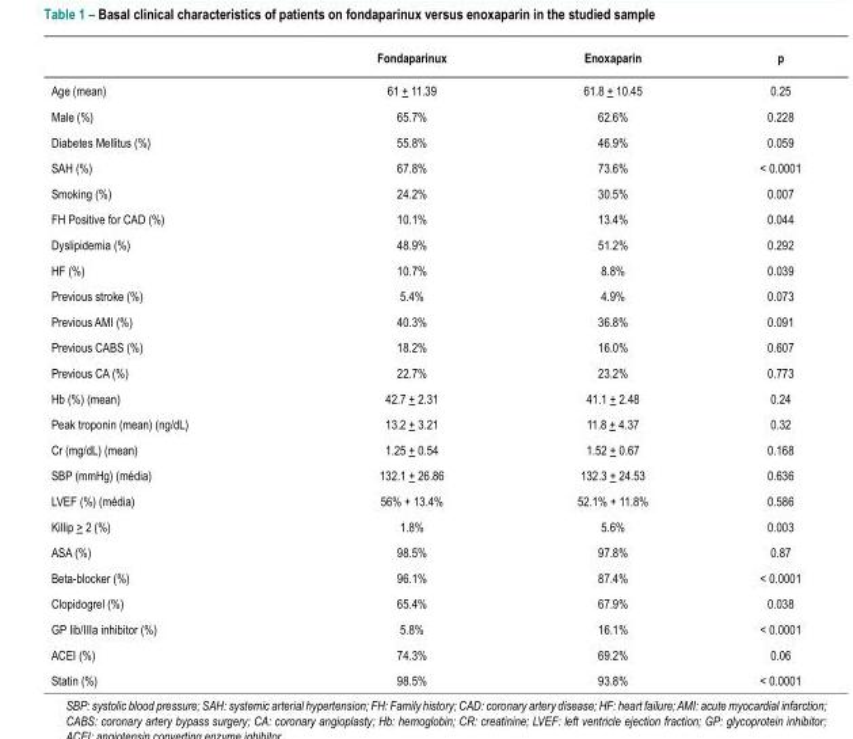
<table><thead><tr><td></td><td>Fondaparinux</td><td>Enoxaparin</td><td>p</td></tr></thead><tbody><tr><td>Age (mean)</td><td>61 + 11.39</td><td>61.8 + 10.45</td><td>0.25</td></tr><tr><td>Male (%)</td><td>65.7%</td><td>62.6%</td><td>0.228</td></tr><tr><td>Diabetes Mellitus (%)</td><td>55.8%</td><td>46.9%</td><td>0.059</td></tr><tr><td>SAH (%)</td><td>67.8%</td><td>73.6%</td><td>&lt; 0.0001</td></tr><tr><td>Smoking (%)</td><td>24.2%</td><td>30.5%</td><td>0.007</td></tr><tr><td>FH Positive for CAD (%)</td><td>10.1%</td><td>13.4%</td><td>0.044</td></tr><tr><td>Dyslipidemia (%)</td><td>48.9%</td><td>51.2%</td><td>0.292</td></tr><tr><td>HF (%)</td><td>10.7%</td><td>8.8%</td><td>0.039</td></tr><tr><td>Previous stroke (%)</td><td>5.4%</td><td>4.9%</td><td>0.073</td></tr><tr><td>Previous AMI (%)</td><td>40.3%</td><td>36.8%</td><td>0.091</td></tr><tr><td>Previous CABS (%)</td><td>18.2%</td><td>16.0%</td><td>0.607</td></tr><tr><td>Previous CA (%)</td><td>22.7%</td><td>23.2%</td><td>0.773</td></tr><tr><td>Hb (%) (mean)</td><td>42.7 + 2.31</td><td>41.1 + 2.48</td><td>0.24</td></tr><tr><td>Peak troponin (mean) (ng/dL)</td><td>13.2 + 3.21</td><td>11.8 + 4.37</td><td>0.32</td></tr><tr><td>Cr (mg/dL) (mean)</td><td>1.25 + 0.54</td><td>1.52 + 0.67</td><td>0.168</td></tr><tr><td>SBP (mmHg) (média)</td><td>132.1 + 26.86</td><td>132.3 + 24.53</td><td>0.636</td></tr><tr><td>LVEF (%) (média)</td><td>56% + 13.4%</td><td>52.1% + 11.8%</td><td>0.586</td></tr><tr><td>Killip &gt; 2 (%)</td><td>1.8%</td><td>5.6%</td><td>0.003</td></tr><tr><td>ASA (%)</td><td>98.5%</td><td>97.8%</td><td>0.87</td></tr><tr><td>Beta-blocker (%)</td><td>96.1%</td><td>87.4%</td><td>&lt; 0.0001</td></tr><tr><td>Clopidogrel (%)</td><td>65.4%</td><td>67.9%</td><td>0.038</td></tr><tr><td>GP Iib/IIIa inhibitor (%)</td><td>5.8%</td><td>16.1%</td><td>&lt; 0.0001</td></tr><tr><td>ACEI (%)</td><td>74.3%</td><td>69.2%</td><td>0.06</td></tr><tr><td>Statin (%)</td><td>98.5%</td><td>93.8%</td><td>&lt; 0.0001</td></tr></tbody></table>